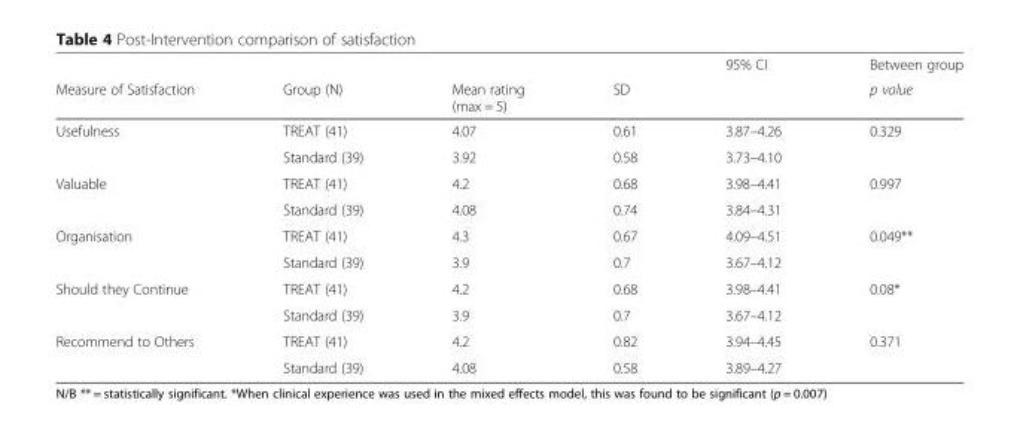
<table><thead><tr><td rowspan="2">Measure of Satisfaction</td><td rowspan="2">Group (N)</td><td rowspan="2">Mean rating (max = 5)</td><td rowspan="2">SD</td><td rowspan="2">95% CI</td><td rowspan="2">Between group p value</td></tr><tr></tr></thead><tbody><tr><td rowspan="2">Usefulness</td><td>TREAT (41)</td><td>4.07</td><td>0.61</td><td>3.87–4.26</td><td>0.329</td></tr><tr><td>Standard (39)</td><td>3.92</td><td>0.58</td><td>3.73–4.10</td><td></td></tr><tr><td rowspan="2">Valuable</td><td>TREAT (41)</td><td>4.2</td><td>0.68</td><td>3.98–4.41</td><td>0.997</td></tr><tr><td>Standard (39)</td><td>4.08</td><td>0.74</td><td>3.84–4.31</td><td></td></tr><tr><td rowspan="2">Organisation</td><td>TREAT (41)</td><td>4.3</td><td>0.67</td><td>4.09–4.51</td><td>0.049**</td></tr><tr><td>Standard (39)</td><td>3.9</td><td>0.7</td><td>3.67–4.12</td><td></td></tr><tr><td rowspan="2">Should they Continue</td><td>TREAT (41)</td><td>4.2</td><td>0.68</td><td>3.98–4.41</td><td>0.08*</td></tr><tr><td>Standard (39)</td><td>3.9</td><td>0.7</td><td>3.67–4.12</td><td></td></tr><tr><td rowspan="2">Recommend to Others</td><td>TREAT (41)</td><td>4.2</td><td>0.82</td><td>3.94–4.45</td><td>0.371</td></tr><tr><td>Standard (39)</td><td>4.08</td><td>0.58</td><td>3.89–4.27</td><td></td></tr></tbody></table>